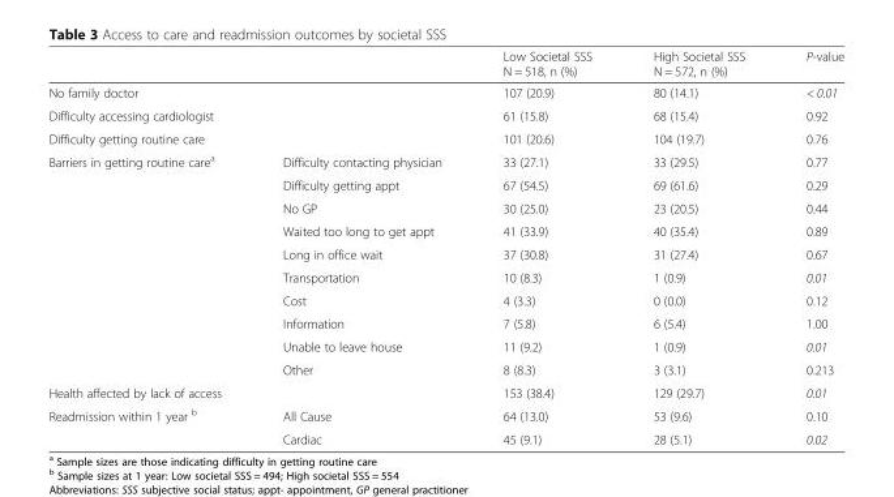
<table><thead><tr><td></td><td></td><td>Low Societal SSS N = 518, n (%)</td><td>High Societal SSS N = 572, n (%)</td><td>P-value</td></tr></thead><tbody><tr><td>No family doctor</td><td></td><td>107 (20.9)</td><td>80 (14.1)</td><td>&lt; 0.01</td></tr><tr><td>Difficulty accessing cardiologist</td><td></td><td>61 (15.8)</td><td>68 (15.4)</td><td>0.92</td></tr><tr><td>Difficulty getting routine care</td><td></td><td>101 (20.6)</td><td>104 (19.7)</td><td>0.76</td></tr><tr><td rowspan="10">Barriers in getting routine care<sup>a</sup></td><td>Difficulty contacting physician</td><td>33 (27.1)</td><td>33 (29.5)</td><td>0.77</td></tr><tr><td>Difficulty getting appt</td><td>67 (54.5)</td><td>69 (61.6)</td><td>0.29</td></tr><tr><td>No GP</td><td>30 (25.0)</td><td>23 (20.5)</td><td>0.44</td></tr><tr><td>Waited too long to get appt</td><td>41 (33.9)</td><td>40 (35.4)</td><td>0.89</td></tr><tr><td>Long in office wait</td><td>37 (30.8)</td><td>31 (27.4)</td><td>0.67</td></tr><tr><td>Transportation</td><td>10 (8.3)</td><td>1 (0.9)</td><td>0.01</td></tr><tr><td>Cost</td><td>4 (3.3)</td><td>0 (0.0)</td><td>0.12</td></tr><tr><td>Information</td><td>7 (5.8)</td><td>6 (5.4)</td><td>1.00</td></tr><tr><td>Unable to leave house</td><td>11 (9.2)</td><td>1 (0.9)</td><td>0.01</td></tr><tr><td>Other</td><td>8 (8.3)</td><td>3 (3.1)</td><td>0.213</td></tr><tr><td>Health affected by lack of access</td><td></td><td>153 (38.4)</td><td>129 (29.7)</td><td>0.01</td></tr><tr><td rowspan="2">Readmission within 1 year <sup>b</sup></td><td>All Cause</td><td>64 (13.0)</td><td>53 (9.6)</td><td>0.10</td></tr><tr><td>Cardiac</td><td>45 (9.1)</td><td>28 (5.1)</td><td>0.02</td></tr></tbody></table>